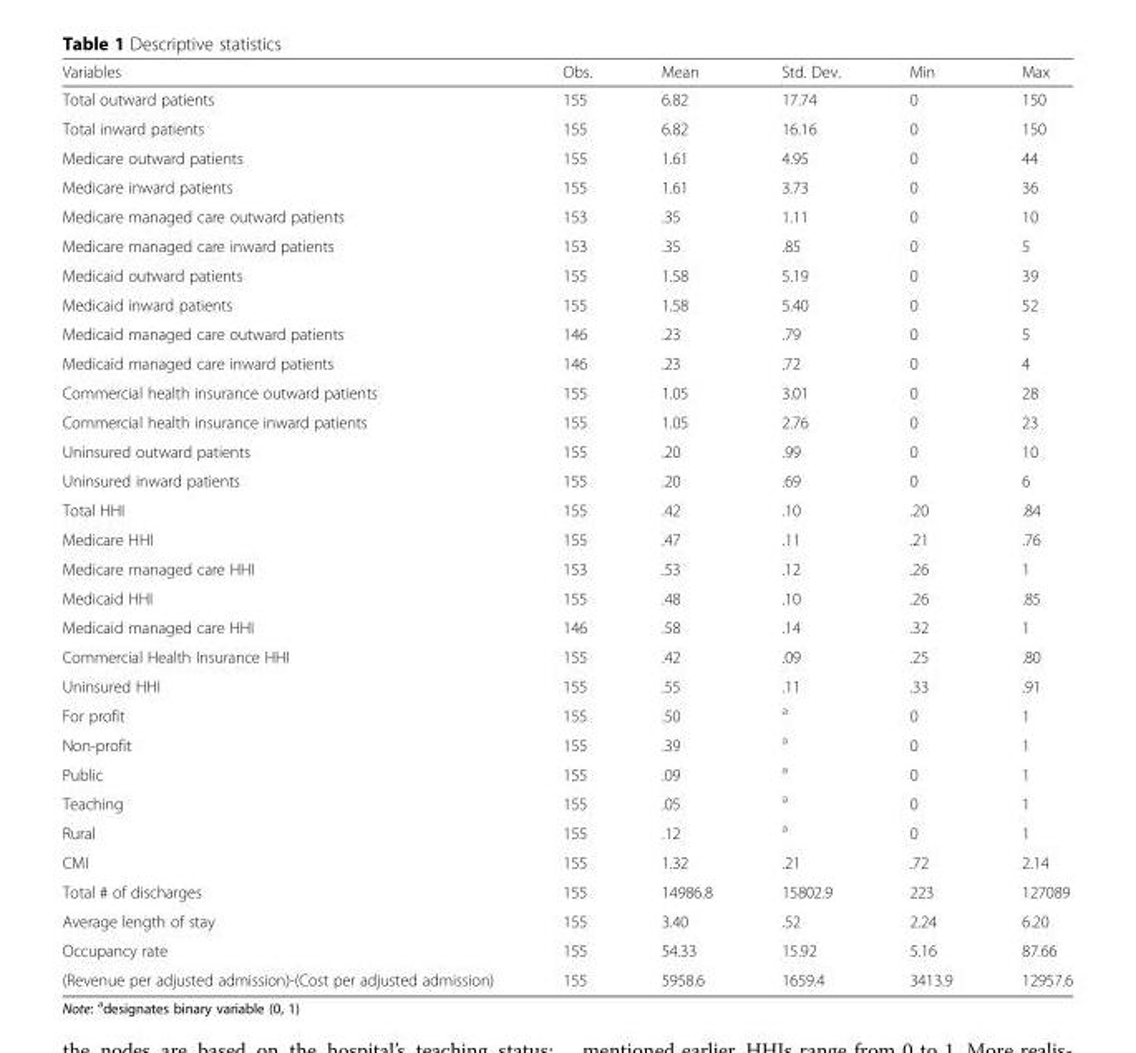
<table><thead><tr><td>Variables</td><td>Obs.</td><td>Mean</td><td>Std. Dev.</td><td>Min</td><td>Max</td></tr></thead><tbody><tr><td>Total outward patients</td><td>155</td><td>6.82</td><td>17.74</td><td>0</td><td>150</td></tr><tr><td>Total inward patients</td><td>155</td><td>6.82</td><td>16.16</td><td>0</td><td>150</td></tr><tr><td>Medicare outward patients</td><td>155</td><td>1.61</td><td>4.95</td><td>0</td><td>44</td></tr><tr><td>Medicare inward patients</td><td>155</td><td>1.61</td><td>3.73</td><td>0</td><td>36</td></tr><tr><td>Medicare managed care outward patients</td><td>153</td><td>.35</td><td>1.11</td><td>0</td><td>10</td></tr><tr><td>Medicare managed care inward patients</td><td>153</td><td>.35</td><td>.85</td><td>0</td><td>5</td></tr><tr><td>Medicaid outward patients</td><td>155</td><td>1.58</td><td>5.19</td><td>0</td><td>39</td></tr><tr><td>Medicaid inward patients</td><td>155</td><td>1.58</td><td>5.40</td><td>0</td><td>52</td></tr><tr><td>Medicaid managed care outward patients</td><td>146</td><td>.23</td><td>.79</td><td>0</td><td>5</td></tr><tr><td>Medicaid managed care inward patients</td><td>146</td><td>.23</td><td>.72</td><td>0</td><td>4</td></tr><tr><td>Commercial health insurance outward patients</td><td>155</td><td>1.05</td><td>3.01</td><td>0</td><td>28</td></tr><tr><td>Commercial health insurance inward patients</td><td>155</td><td>1.05</td><td>2.76</td><td>0</td><td>23</td></tr><tr><td>Uninsured outward patients</td><td>155</td><td>.20</td><td>.99</td><td>0</td><td>10</td></tr><tr><td>Uninsured inward patients</td><td>155</td><td>.20</td><td>.69</td><td>0</td><td>6</td></tr><tr><td>Total HHI</td><td>155</td><td>.42</td><td>.10</td><td>.20</td><td>.84</td></tr><tr><td>Medicare HHI</td><td>155</td><td>.47</td><td>.11</td><td>.21</td><td>.76</td></tr><tr><td>Medicare managed care HHI</td><td>153</td><td>.53</td><td>.12</td><td>.26</td><td>1</td></tr><tr><td>Medicaid HHI</td><td>155</td><td>.48</td><td>.10</td><td>.26</td><td>.85</td></tr><tr><td>Medicaid managed care HHI</td><td>146</td><td>.58</td><td>.14</td><td>.32</td><td>1</td></tr><tr><td>Commercial Health Insurance HHI</td><td>155</td><td>.42</td><td>.09</td><td>.25</td><td>.80</td></tr><tr><td>Uninsured HHI</td><td>155</td><td>.55</td><td>.11</td><td>.33</td><td>.91</td></tr><tr><td>For profit</td><td>155</td><td>.50</td><td><sup>a</sup></td><td>0</td><td>1</td></tr><tr><td>Non-profit</td><td>155</td><td>.39</td><td><sup>a</sup></td><td>0</td><td>1</td></tr><tr><td>Public</td><td>155</td><td>.09</td><td><sup>a</sup></td><td>0</td><td>1</td></tr><tr><td>Teaching</td><td>155</td><td>.05</td><td><sup>a</sup></td><td>0</td><td>1</td></tr><tr><td>Rural</td><td>155</td><td>.12</td><td><sup>a</sup></td><td>0</td><td>1</td></tr><tr><td>CMI</td><td>155</td><td>1.32</td><td>.21</td><td>.72</td><td>2.14</td></tr><tr><td>Total # of discharges</td><td>155</td><td>14986.8</td><td>15802.9</td><td>223</td><td>127089</td></tr><tr><td>Average length of stay</td><td>155</td><td>3.40</td><td>.52</td><td>2.24</td><td>6.20</td></tr><tr><td>Occupancy rate</td><td>155</td><td>54.33</td><td>15.92</td><td>5.16</td><td>87.66</td></tr><tr><td>(Revenue per adjusted admission)-(Cost per adjusted admission)</td><td>155</td><td>5958.6</td><td>1659.4</td><td>3413.9</td><td>12957.6</td></tr></tbody></table>